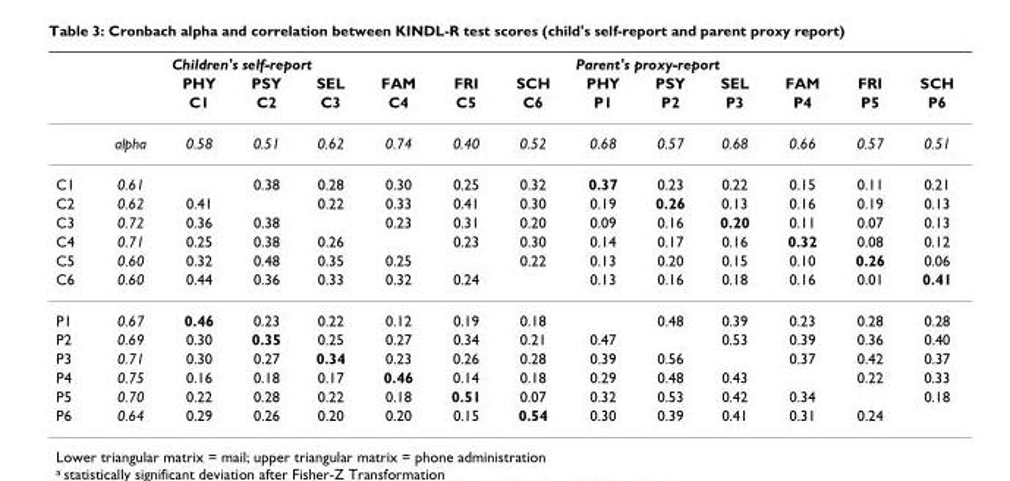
<table><thead><tr><td rowspan="3"></td><td rowspan="3"></td><td colspan="6">Children&#x27;s self-report</td><td colspan="6">Parent&#x27;s proxy-report</td></tr><tr><td rowspan="2">PHY C1</td><td rowspan="2">PSY C2</td><td rowspan="2">SEL C3</td><td rowspan="2">FAM C4</td><td rowspan="2">FRI C5</td><td rowspan="2">SCH C6</td><td rowspan="2">PHY P1</td><td rowspan="2">PSY P2</td><td rowspan="2">SEL P3</td><td rowspan="2">FAM P4</td><td rowspan="2">FRI P5</td><td rowspan="2">SCH P6</td></tr><tr></tr></thead><tbody><tr><td></td><td>alpha</td><td>0.58</td><td>0.51</td><td>0.62</td><td>0.74</td><td>0.40</td><td>0.52</td><td>0.68</td><td>0.57</td><td>0.68</td><td>0.66</td><td>0.57</td><td>0.51</td></tr><tr><td>C1</td><td>0.61</td><td></td><td>0.38</td><td>0.28</td><td>0.30</td><td>0.25</td><td>0.32</td><td>0.37</td><td>0.23</td><td>0.22</td><td>0.15</td><td>0.11</td><td>0.21</td></tr><tr><td>C2</td><td>0.62</td><td>0.41</td><td></td><td>0.22</td><td>0.33</td><td>0.41</td><td>0.30</td><td>0.19</td><td>0.26</td><td>0.13</td><td>0.16</td><td>0.19</td><td>0.13</td></tr><tr><td>C3</td><td>0.72</td><td>0.36</td><td>0.38</td><td></td><td>0.23</td><td>0.31</td><td>0.20</td><td>0.09</td><td>0.16</td><td>0.20</td><td>0.11</td><td>0.07</td><td>0.13</td></tr><tr><td>C4</td><td>0.71</td><td>0.25</td><td>0.38</td><td>0.26</td><td></td><td>0.23</td><td>0.30</td><td>0.14</td><td>0.17</td><td>0.16</td><td>0.32</td><td>0.08</td><td>0.12</td></tr><tr><td>C5</td><td>0.60</td><td>0.32</td><td>0.48</td><td>0.35</td><td>0.25</td><td></td><td>0.22</td><td>0.13</td><td>0.20</td><td>0.15</td><td>0.10</td><td>0.26</td><td>0.06</td></tr><tr><td>C6</td><td>0.60</td><td>0.44</td><td>0.36</td><td>0.33</td><td>0.32</td><td>0.24</td><td></td><td>0.13</td><td>0.16</td><td>0.18</td><td>0.16</td><td>0.01</td><td>0.41</td></tr><tr><td>P1</td><td>0.67</td><td>0.46</td><td>0.23</td><td>0.22</td><td>0.12</td><td>0.19</td><td>0.18</td><td></td><td>0.48</td><td>0.39</td><td>0.23</td><td>0.28</td><td>0.28</td></tr><tr><td>P2</td><td>0.69</td><td>0.30</td><td>0.35</td><td>0.25</td><td>0.27</td><td>0.34</td><td>0.21</td><td>0.47</td><td></td><td>0.53</td><td>0.39</td><td>0.36</td><td>0.40</td></tr><tr><td>P3</td><td>0.71</td><td>0.30</td><td>0.27</td><td>0.34</td><td>0.23</td><td>0.26</td><td>0.28</td><td>0.39</td><td>0.56</td><td></td><td>0.37</td><td>0.42</td><td>0.37</td></tr><tr><td>P4</td><td>0.75</td><td>0.16</td><td>0.18</td><td>0.17</td><td>0.46</td><td>0.14</td><td>0.18</td><td>0.29</td><td>0.48</td><td>0.43</td><td></td><td>0.22</td><td>0.33</td></tr><tr><td>P5</td><td>0.70</td><td>0.22</td><td>0.28</td><td>0.22</td><td>0.18</td><td>0.51</td><td>0.07</td><td>0.32</td><td>0.53</td><td>0.42</td><td>0.34</td><td></td><td>0.18</td></tr><tr><td>P6</td><td>0.64</td><td>0.29</td><td>0.26</td><td>0.20</td><td>0.20</td><td>0.15</td><td>0.54</td><td>0.30</td><td>0.39</td><td>0.41</td><td>0.31</td><td>0.24</td><td></td></tr></tbody></table>